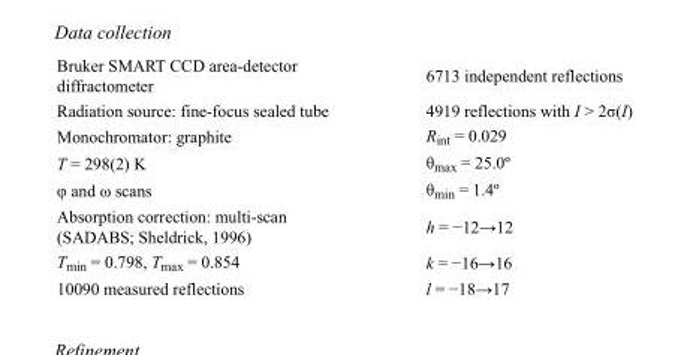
<table><tbody><tr><td>Bruker SMART CCD area-detector diffractometer</td><td>6713 independent reflections</td></tr><tr><td>Radiation source: fine-focus sealed tube</td><td>4919 reflections with I &gt; 2σ(I)</td></tr><tr><td>Monochromator: graphite</td><td>R<sub>int</sub> = 0.029</td></tr><tr><td>T = 298(2) K</td><td>θ<sub>max</sub> = 25.0º</td></tr><tr><td>φ and ω scans</td><td>θ<sub>min</sub> = 1.4º</td></tr><tr><td>Absorption correction: multi-scan (SADABS; Sheldrick, 1996)</td><td>h = −12→12</td></tr><tr><td>T<sub>min</sub> = 0.798, T<sub>max</sub> = 0.854</td><td>k = −16→16</td></tr><tr><td>10090 measured reflections</td><td>l = −18→17</td></tr></tbody></table>